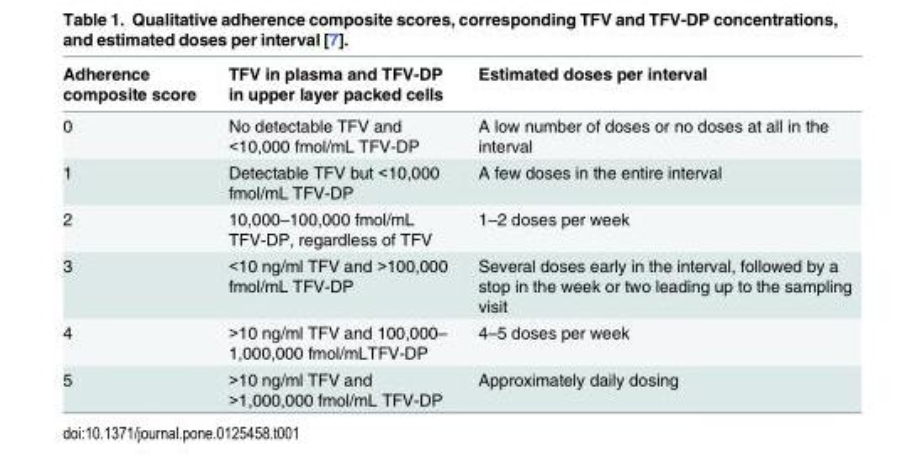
<table><thead><tr><td>Adherence composite score</td><td>TFV in plasma and TFV-DP in upper layer packed cells</td><td>Estimated doses per interval</td></tr></thead><tbody><tr><td>0</td><td>No detectable TFV and &lt;10,000 fmol/mL TFV-DP</td><td>A low number of doses or no doses at all in the interval</td></tr><tr><td>1</td><td>Detectable TFV but &lt;10,000 fmol/mL TFV-DP</td><td>A few doses in the entire interval</td></tr><tr><td>2</td><td>10,000–100,000 fmol/mL TFV-DP, regardless of TFV</td><td>1–2 doses per week</td></tr><tr><td>3</td><td>&lt;10 ng/ml TFV and &gt;100,000 fmol/mL TFV-DP</td><td>Several doses early in the interval, followed by a stop in the week or two leading up to the sampling visit</td></tr><tr><td>4</td><td>&gt;10 ng/ml TFV and 100,000– 1,000,000 fmol/mLTFV-DP</td><td>4–5 doses per week</td></tr><tr><td>5</td><td>&gt;10 ng/ml TFV and &gt;1,000,000 fmol/mL TFV-DP</td><td>Approximately daily dosing</td></tr></tbody></table>